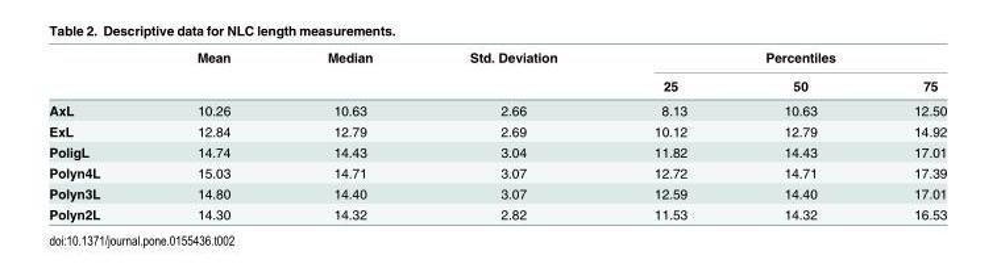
<table><thead><tr><td rowspan="2"></td><td rowspan="2">Mean</td><td rowspan="2">Median</td><td rowspan="2">Std. Deviation</td><td colspan="3">Percentiles</td></tr><tr><td>25</td><td>50</td><td>75</td></tr></thead><tbody><tr><td>AxL</td><td>10.26</td><td>10.63</td><td>2.66</td><td>8.13</td><td>10.63</td><td>12.50</td></tr><tr><td>ExL</td><td>12.84</td><td>12.79</td><td>2.69</td><td>10.12</td><td>12.79</td><td>14.92</td></tr><tr><td>PoligL</td><td>14.74</td><td>14.43</td><td>3.04</td><td>11.82</td><td>14.43</td><td>17.01</td></tr><tr><td>Polyn4L</td><td>15.03</td><td>14.71</td><td>3.07</td><td>12.72</td><td>14.71</td><td>17.39</td></tr><tr><td>Polyn3L</td><td>14.80</td><td>14.40</td><td>3.07</td><td>12.59</td><td>14.40</td><td>17.01</td></tr><tr><td>Polyn2L</td><td>14.30</td><td>14.32</td><td>2.82</td><td>11.53</td><td>14.32</td><td>16.53</td></tr></tbody></table>